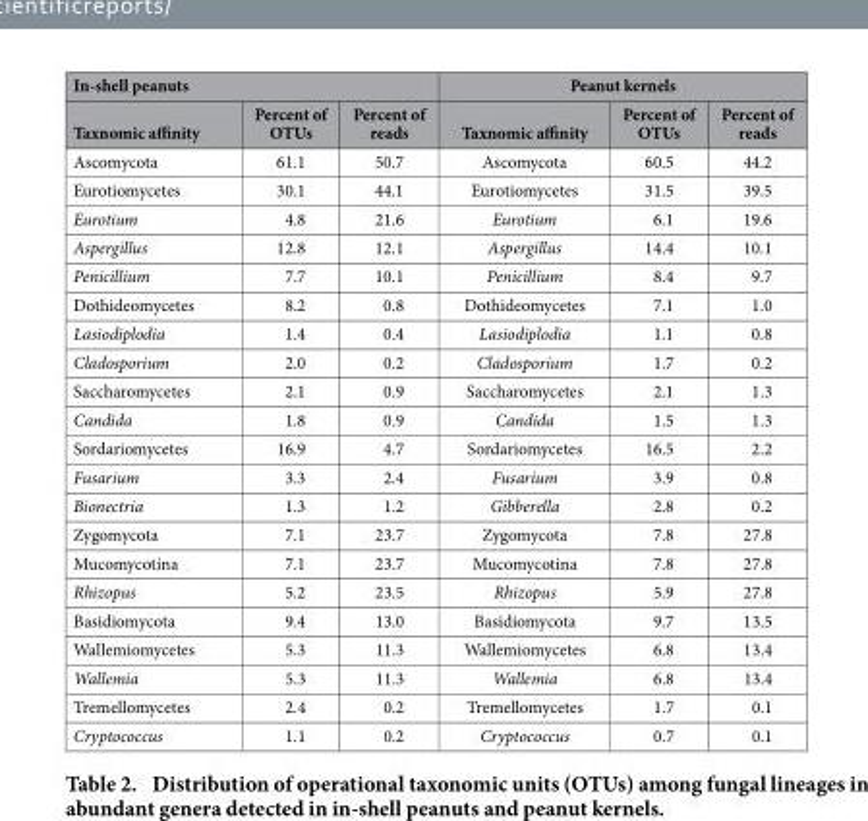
<table><thead><tr><td colspan="3">In-shell peanuts</td><td colspan="3">Peanut kernels</td></tr><tr><td>Taxnomic affinity</td><td>Percent of OTUs</td><td>Percent of reads</td><td>Taxnomic affinity</td><td>Percent of OTUs</td><td>Percent of reads</td></tr></thead><tbody><tr><td>Ascomycota</td><td>61.1</td><td>50.7</td><td>Ascomycota</td><td>60.5</td><td>44.2</td></tr><tr><td>Eurotiomycetes</td><td>30.1</td><td>44.1</td><td>Eurotiomycetes</td><td>31.5</td><td>39.5</td></tr><tr><td>Eurotium</td><td>4.8</td><td>21.6</td><td>Eurotium</td><td>6.1</td><td>19.6</td></tr><tr><td>Aspergillus</td><td>12.8</td><td>12.1</td><td>Aspergillus</td><td>14.4</td><td>10.1</td></tr><tr><td>Penicillium</td><td>7.7</td><td>10.1</td><td>Penicillium</td><td>8.4</td><td>9.7</td></tr><tr><td>Dothideomycetes</td><td>8.2</td><td>0.8</td><td>Dothideomycetes</td><td>7.1</td><td>1.0</td></tr><tr><td>Lasiodiplodia</td><td>1.4</td><td>0.4</td><td>Lasiodiplodia</td><td>1.1</td><td>0.8</td></tr><tr><td>Cladosporium</td><td>2.0</td><td>0.2</td><td>Cladosporium</td><td>1.7</td><td>0.2</td></tr><tr><td>Saccharomycetes</td><td>2.1</td><td>0.9</td><td>Saccharomycetes</td><td>2.1</td><td>1.3</td></tr><tr><td>Candida</td><td>1.8</td><td>0.9</td><td>Candida</td><td>1.5</td><td>1.3</td></tr><tr><td>Sordariomycetes</td><td>16.9</td><td>4.7</td><td>Sordariomycetes</td><td>16.5</td><td>2.2</td></tr><tr><td>Fusarium</td><td>3.3</td><td>2.4</td><td>Fusarium</td><td>3.9</td><td>0.8</td></tr><tr><td>Bionectria</td><td>1.3</td><td>1.2</td><td>Gibberella</td><td>2.8</td><td>0.2</td></tr><tr><td>Zygomycota</td><td>7.1</td><td>23.7</td><td>Zygomycota</td><td>7.8</td><td>27.8</td></tr><tr><td>Mucomycotina</td><td>7.1</td><td>23.7</td><td>Mucomycotina</td><td>7.8</td><td>27.8</td></tr><tr><td>Rhizopus</td><td>5.2</td><td>23.5</td><td>Rhizopus</td><td>5.9</td><td>27.8</td></tr><tr><td>Basidiomycota</td><td>9.4</td><td>13.0</td><td>Basidiomycota</td><td>9.7</td><td>13.5</td></tr><tr><td>Wallemiomycetes</td><td>5.3</td><td>11.3</td><td>Wallemiomycetes</td><td>6.8</td><td>13.4</td></tr><tr><td>Wallemia</td><td>5.3</td><td>11.3</td><td>Wallemia</td><td>6.8</td><td>13.4</td></tr><tr><td>Tremellomycetes</td><td>2.4</td><td>0.2</td><td>Tremellomycetes</td><td>1.7</td><td>0.1</td></tr><tr><td>Cryptococcus</td><td>1.1</td><td>0.2</td><td>Cryptococcus</td><td>0.7</td><td>0.1</td></tr></tbody></table>